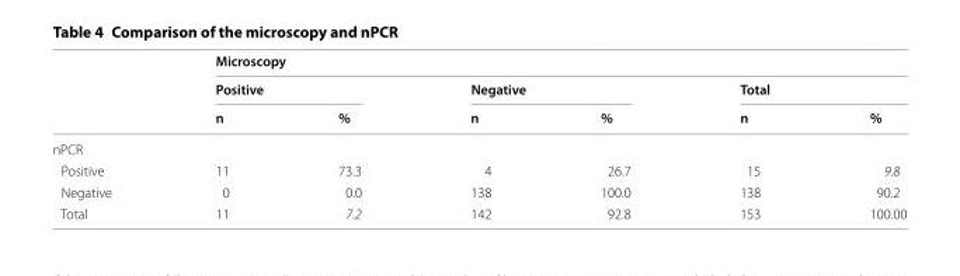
<table><thead><tr><td rowspan="3"></td><td colspan="6">Microscopy</td></tr><tr><td colspan="2">Positive</td><td colspan="2">Negative</td><td colspan="2">Total</td></tr><tr><td>n</td><td>%</td><td>n</td><td>%</td><td>n</td><td>%</td></tr></thead><tbody><tr><td colspan="7">nPCR</td></tr><tr><td>Positive</td><td>11</td><td>73.3</td><td>4</td><td>26.7</td><td>15</td><td>9.8</td></tr><tr><td>Negative</td><td>0</td><td>0.0</td><td>138</td><td>100.0</td><td>138</td><td>90.2</td></tr><tr><td>Total</td><td>11</td><td>7.2</td><td>142</td><td>92.8</td><td>153</td><td>100.00</td></tr></tbody></table>